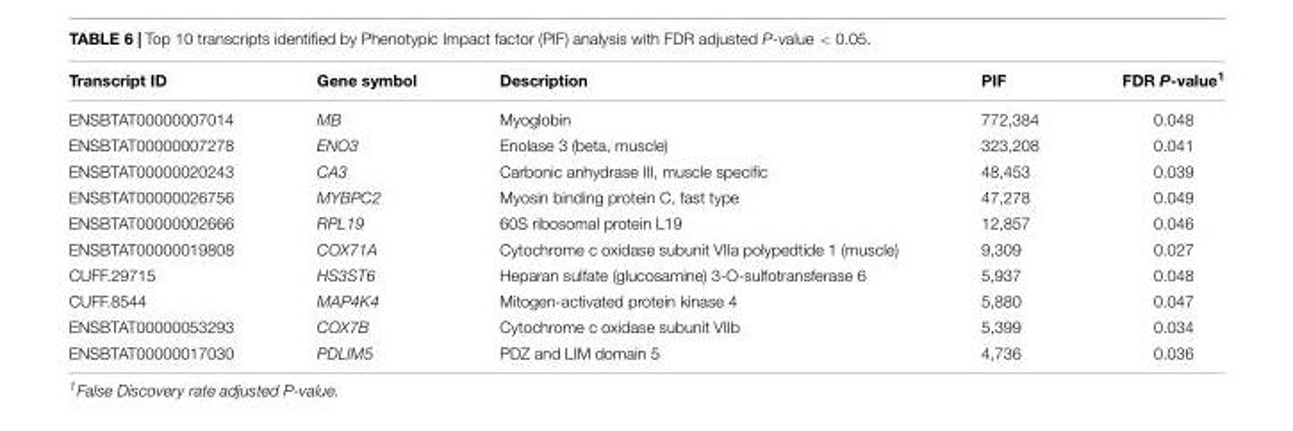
<table><thead><tr><td>Transcript ID</td><td>Gene symbol</td><td>Description</td><td>PIF</td><td>FDR P-value<sup>1</sup></td></tr></thead><tbody><tr><td>ENSBTAT00000007014</td><td>MB</td><td>Myoglobin</td><td>772,384</td><td>0.048</td></tr><tr><td>ENSBTAT00000007278</td><td>ENO3</td><td>Enolase 3 (beta, muscle)</td><td>323,208</td><td>0.041</td></tr><tr><td>ENSBTAT00000020243</td><td>CA3</td><td>Carbonic anhydrase III, muscle specific</td><td>48,453</td><td>0.039</td></tr><tr><td>ENSBTAT00000026756</td><td>MYBPC2</td><td>Myosin binding protein C, fast type</td><td>47,278</td><td>0.049</td></tr><tr><td>ENSBTAT00000002666</td><td>RPL19</td><td>60S ribosomal protein L19</td><td>12,857</td><td>0.046</td></tr><tr><td>ENSBTAT00000019808</td><td>COX71A</td><td>Cytochrome c oxidase subunit VIIa polypedtide 1 (muscle)</td><td>9,309</td><td>0.027</td></tr><tr><td>CUFF.29715</td><td>HS3ST6</td><td>Heparan sulfate (glucosamine) 3-O-sulfotransferase 6</td><td>5,937</td><td>0.048</td></tr><tr><td>CUFF.8544</td><td>MAP4K4</td><td>Mitogen-activated protein kinase 4</td><td>5,880</td><td>0.047</td></tr><tr><td>ENSBTAT00000053293</td><td>COX7B</td><td>Cytochrome c oxidase subunit VIIb</td><td>5,399</td><td>0.034</td></tr><tr><td>ENSBTAT00000017030</td><td>PDLIM5</td><td>PDZ and LIM domain 5</td><td>4,736</td><td>0.036</td></tr></tbody></table>